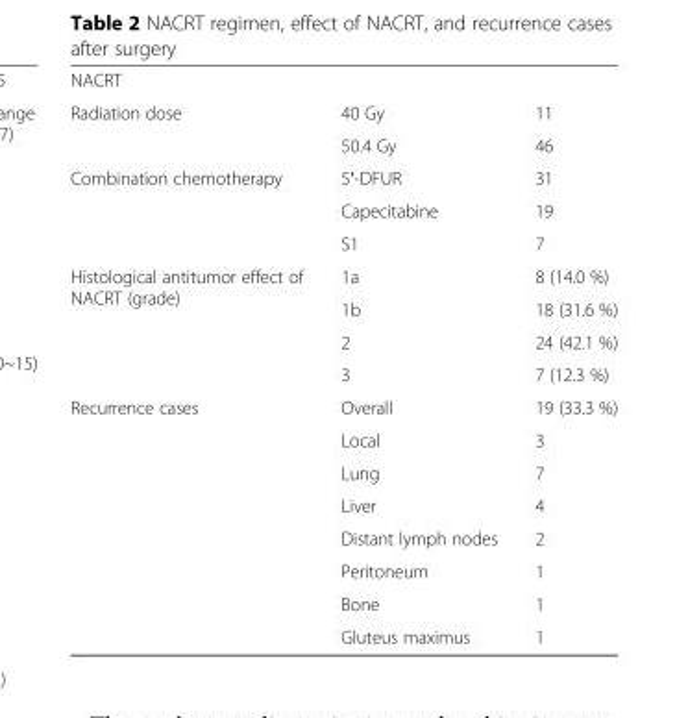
<table><tbody><tr><td colspan="3">NACRT</td></tr><tr><td rowspan="2">Radiation dose</td><td>40 Gy</td><td>11</td></tr><tr><td>50.4 Gy</td><td>46</td></tr><tr><td rowspan="3">Combination chemotherapy</td><td>5′-DFUR</td><td>31</td></tr><tr><td>Capecitabine</td><td>19</td></tr><tr><td>S1</td><td>7</td></tr><tr><td rowspan="4">Histological antitumor effect of NACRT (grade)</td><td>1a</td><td>8 (14.0 %)</td></tr><tr><td>1b</td><td>18 (31.6 %)</td></tr><tr><td>2</td><td>24 (42.1 %)</td></tr><tr><td>3</td><td>7 (12.3 %)</td></tr><tr><td rowspan="8">Recurrence cases</td><td>Overall</td><td>19 (33.3 %)</td></tr><tr><td>Local</td><td>3</td></tr><tr><td>Lung</td><td>7</td></tr><tr><td>Liver</td><td>4</td></tr><tr><td>Distant lymph nodes</td><td>2</td></tr><tr><td>Peritoneum</td><td>1</td></tr><tr><td>Bone</td><td>1</td></tr><tr><td>Gluteus maximus</td><td>1</td></tr></tbody></table>